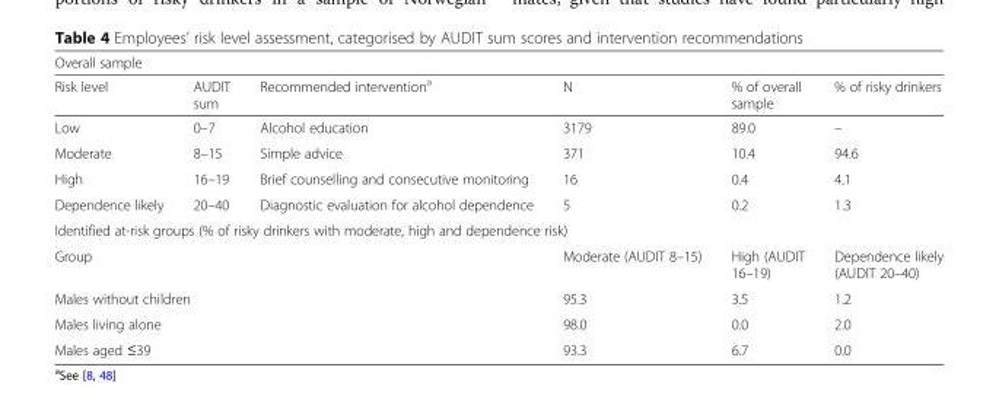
<table><thead><tr><td colspan="6">Overall sample</td></tr><tr><td>Risk level</td><td>AUDIT sum</td><td>Recommended intervention<sup>a</sup></td><td>N</td><td>% of overall sample</td><td>% of risky drinkers</td></tr></thead><tbody><tr><td>Low</td><td>0–7</td><td>Alcohol education</td><td>3179</td><td>89.0</td><td>–</td></tr><tr><td>Moderate</td><td>8–15</td><td>Simple advice</td><td>371</td><td>10.4</td><td>94.6</td></tr><tr><td>High</td><td>16–19</td><td>Brief counselling and consecutive monitoring</td><td>16</td><td>0.4</td><td>4.1</td></tr><tr><td>Dependence likely</td><td>20–40</td><td>Diagnostic evaluation for alcohol dependence</td><td>5</td><td>0.2</td><td>1.3</td></tr><tr><td colspan="6">Identified at-risk groups (% of risky drinkers with moderate, high and dependence risk)</td></tr><tr><td colspan="3">Group</td><td>Moderate (AUDIT 8–15)</td><td>High (AUDIT 16–19)</td><td>Dependence likely (AUDIT 20–40)</td></tr><tr><td colspan="3">Males without children</td><td>95.3</td><td>3.5</td><td>1.2</td></tr><tr><td colspan="3">Males living alone</td><td>98.0</td><td>0.0</td><td>2.0</td></tr><tr><td colspan="3">Males aged ≤39</td><td>93.3</td><td>6.7</td><td>0.0</td></tr></tbody></table>